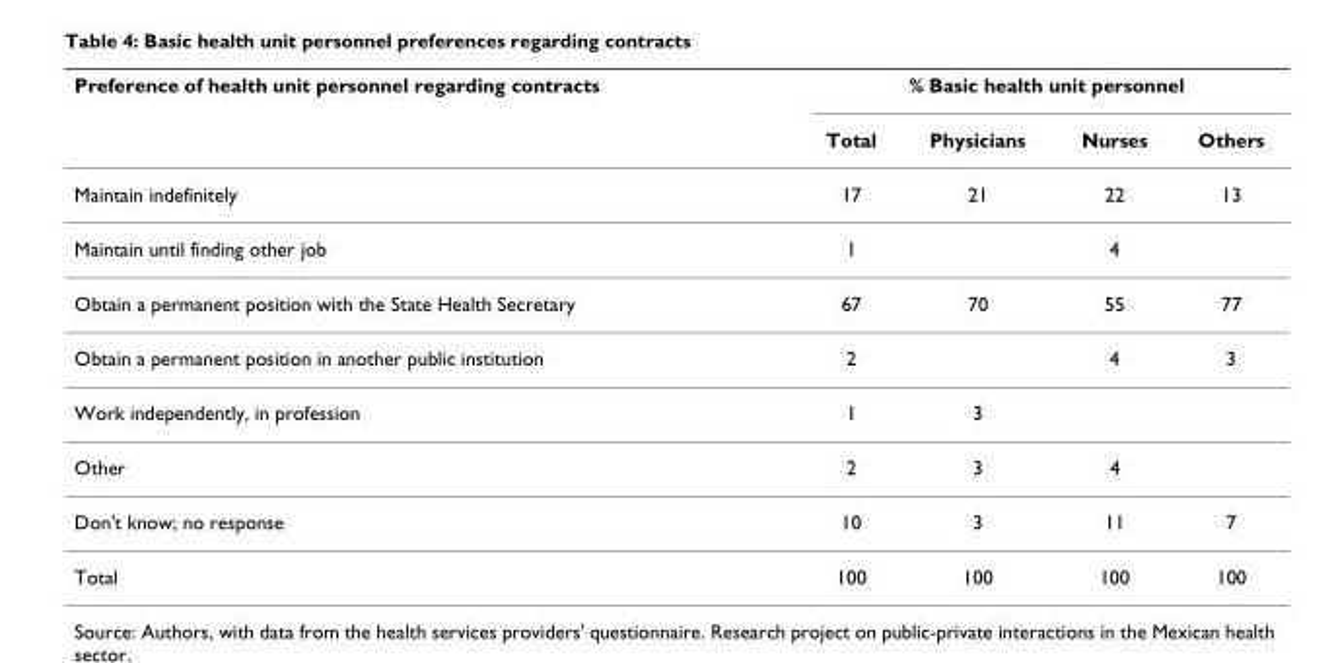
<table><thead><tr><td rowspan="2">Preference of health unit personnel regarding contracts</td><td colspan="4">% Basic health unit personnel</td></tr><tr><td>Total</td><td>Physicians</td><td>Nurses</td><td>Others</td></tr></thead><tbody><tr><td>Maintain indefinitely</td><td>17</td><td>21</td><td>22</td><td>13</td></tr><tr><td>Maintain until finding other job</td><td>1</td><td></td><td>4</td><td></td></tr><tr><td>Obtain a permanent position with the State Health Secretary</td><td>67</td><td>70</td><td>55</td><td>77</td></tr><tr><td>Obtain a permanent position in another public institution</td><td>2</td><td></td><td>4</td><td>3</td></tr><tr><td>Work independently, in profession</td><td>1</td><td>3</td><td></td><td></td></tr><tr><td>Other</td><td>2</td><td>3</td><td>4</td><td></td></tr><tr><td>Don&#x27;t know; no response</td><td>10</td><td>3</td><td>11</td><td>7</td></tr><tr><td>Total</td><td>100</td><td>100</td><td>100</td><td>100</td></tr></tbody></table>